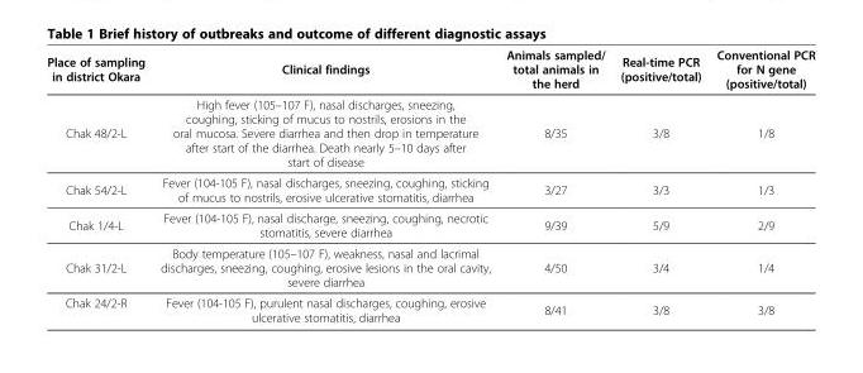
<table><thead><tr><td>Place of sampling in district Okara</td><td>Clinical findings</td><td>Animals sampled/ total animals in the herd</td><td>Real-time PCR (positive/total)</td><td>Conventional PCR for N gene (positive/total)</td></tr></thead><tbody><tr><td>Chak 48/2-L</td><td>High fever (105–107 F), nasal discharges, sneezing, coughing, sticking of mucus to nostrils, erosions in the oral mucosa. Severe diarrhea and then drop in temperature after start of the diarrhea. Death nearly 5–10 days after start of disease</td><td>8/35</td><td>3/8</td><td>1/8</td></tr><tr><td>Chak 54/2-L</td><td>Fever (104-105 F), nasal discharges, sneezing, coughing, sticking of mucus to nostrils, erosive ulcerative stomatitis, diarrhea</td><td>3/27</td><td>3/3</td><td>1/3</td></tr><tr><td>Chak 1/4-L</td><td>Fever (104-105 F), nasal discharge, sneezing, coughing, necrotic stomatitis, severe diarrhea</td><td>9/39</td><td>5/9</td><td>2/9</td></tr><tr><td>Chak 31/2-L</td><td>Body temperature (105–107 F), weakness, nasal and lacrimal discharges, sneezing, coughing, erosive lesions in the oral cavity, severe diarrhea</td><td>4/50</td><td>3/4</td><td>1/4</td></tr><tr><td>Chak 24/2-R</td><td>Fever (104-105 F), purulent nasal discharges, coughing, erosive ulcerative stomatitis, diarrhea</td><td>8/41</td><td>3/8</td><td>3/8</td></tr></tbody></table>